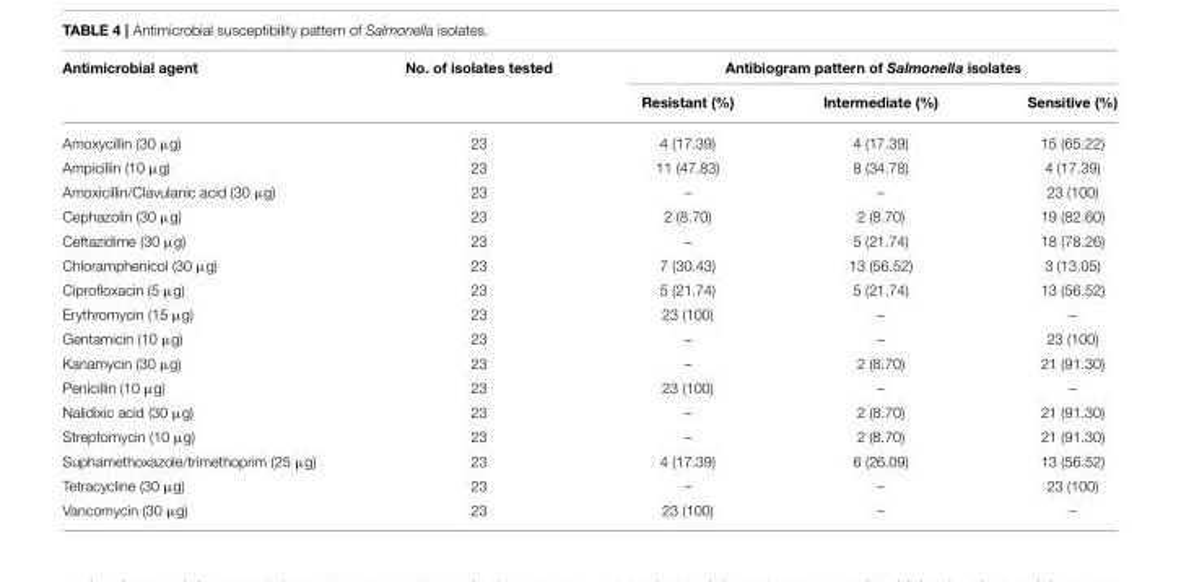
<table><thead><tr><td rowspan="2">Antimicrobial agent</td><td rowspan="2">No. of isolates tested</td><td colspan="3">Antibiogram pattern of Salmonella isolates</td></tr><tr><td>Resistant (%)</td><td>Intermediate (%)</td><td>Sensitive (%)</td></tr></thead><tbody><tr><td>Amoxycillin (30 µg)</td><td>23</td><td>4 (17.39)</td><td>4 (17.39)</td><td>15 (65.22)</td></tr><tr><td>Ampicillin (10 µg)</td><td>23</td><td>11 (47.83)</td><td>8 (34.78)</td><td>4 (17.39)</td></tr><tr><td>Amoxicillin/Clavulanic acid (30 µg)</td><td>23</td><td>–</td><td>–</td><td>23 (100)</td></tr><tr><td>Cephazolin (30 µg)</td><td>23</td><td>2 (8.70)</td><td>2 (8.70)</td><td>19 (82.60)</td></tr><tr><td>Ceftazidime (30 µg)</td><td>23</td><td>–</td><td>5 (21.74)</td><td>18 (78.26)</td></tr><tr><td>Chloramphenicol (30 µg)</td><td>23</td><td>7 (30.43)</td><td>13 (56.52)</td><td>3 (13.05)</td></tr><tr><td>Ciprofloxacin (5 µg)</td><td>23</td><td>5 (21.74)</td><td>5 (21.74)</td><td>13 (56.52)</td></tr><tr><td>Erythromycin (15 µg)</td><td>23</td><td>23 (100)</td><td>–</td><td>–</td></tr><tr><td>Gentamicin (10 µg)</td><td>23</td><td>–</td><td>–</td><td>23 (100)</td></tr><tr><td>Kanamycin (30 µg)</td><td>23</td><td>–</td><td>2 (8.70)</td><td>21 (91.30)</td></tr><tr><td>Penicillin (10 µg)</td><td>23</td><td>23 (100)</td><td>–</td><td>–</td></tr><tr><td>Nalidixic acid (30 µg)</td><td>23</td><td>–</td><td>2 (8.70)</td><td>21 (91.30)</td></tr><tr><td>Streptomycin (10 µg)</td><td>23</td><td>–</td><td>2 (8.70)</td><td>21 (91.30)</td></tr><tr><td>Suphamethoxazole/trimethoprim (25 µg)</td><td>23</td><td>4 (17.39)</td><td>6 (26.09)</td><td>13 (56.52)</td></tr><tr><td>Tetracycline (30 µg)</td><td>23</td><td>–</td><td>–</td><td>23 (100)</td></tr><tr><td>Vancomycin (30 µg)</td><td>23</td><td>23 (100)</td><td>–</td><td>–</td></tr></tbody></table>